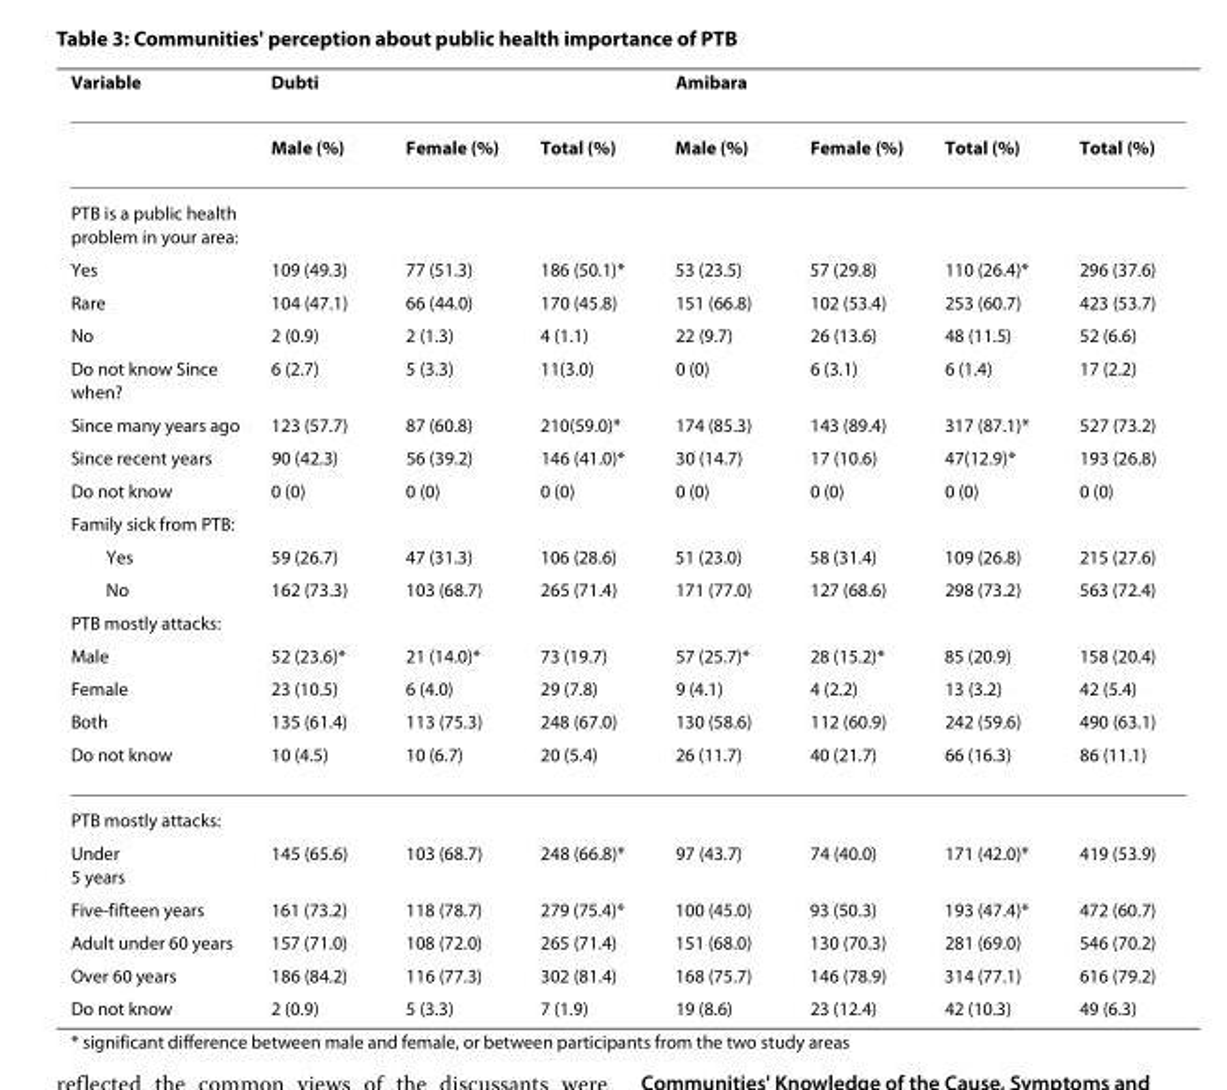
<table><thead><tr><td rowspan="2">Variable</td><td colspan="3">Dubti</td><td colspan="3">Amibara</td><td rowspan="2">Total (%)</td></tr><tr><td>Male (%)</td><td>Female (%)</td><td>Total (%)</td><td>Male (%)</td><td>Female (%)</td><td>Total (%)</td></tr></thead><tbody><tr><td colspan="8">PTB is a public health problem in your area:</td></tr><tr><td>Yes</td><td>109 (49.3)</td><td>77 (51.3)</td><td>186 (50.1)*</td><td>53 (23.5)</td><td>57 (29.8)</td><td>110 (26.4)*</td><td>296 (37.6)</td></tr><tr><td>Rare</td><td>104 (47.1)</td><td>66 (44.0)</td><td>170 (45.8)</td><td>151 (66.8)</td><td>102 (53.4)</td><td>253 (60.7)</td><td>423 (53.7)</td></tr><tr><td>No</td><td>2 (0.9)</td><td>2 (1.3)</td><td>4 (1.1)</td><td>22 (9.7)</td><td>26 (13.6)</td><td>48 (11.5)</td><td>52 (6.6)</td></tr><tr><td>Do not know Since when?</td><td>6 (2.7)</td><td>5 (3.3)</td><td>11(3.0)</td><td>0 (0)</td><td>6 (3.1)</td><td>6 (1.4)</td><td>17 (2.2)</td></tr><tr><td>Since many years ago</td><td>123 (57.7)</td><td>87 (60.8)</td><td>210(59.0)*</td><td>174 (85.3)</td><td>143 (89.4)</td><td>317 (87.1)*</td><td>527 (73.2)</td></tr><tr><td>Since recent years</td><td>90 (42.3)</td><td>56 (39.2)</td><td>146 (41.0)*</td><td>30 (14.7)</td><td>17 (10.6)</td><td>47(12.9)*</td><td>193 (26.8)</td></tr><tr><td>Do not know</td><td>0 (0)</td><td>0 (0)</td><td>0 (0)</td><td>0 (0)</td><td>0 (0)</td><td>0 (0)</td><td>0 (0)</td></tr><tr><td colspan="8">Family sick from PTB:</td></tr><tr><td>Yes</td><td>59 (26.7)</td><td>47 (31.3)</td><td>106 (28.6)</td><td>51 (23.0)</td><td>58 (31.4)</td><td>109 (26.8)</td><td>215 (27.6)</td></tr><tr><td>No</td><td>162 (73.3)</td><td>103 (68.7)</td><td>265 (71.4)</td><td>171 (77.0)</td><td>127 (68.6)</td><td>298 (73.2)</td><td>563 (72.4)</td></tr><tr><td colspan="8">PTB mostly attacks:</td></tr><tr><td>Male</td><td>52 (23.6)*</td><td>21 (14.0)*</td><td>73 (19.7)</td><td>57 (25.7)*</td><td>28 (15.2)*</td><td>85 (20.9)</td><td>158 (20.4)</td></tr><tr><td>Female</td><td>23 (10.5)</td><td>6 (4.0)</td><td>29 (7.8)</td><td>9 (4.1)</td><td>4 (2.2)</td><td>13 (3.2)</td><td>42 (5.4)</td></tr><tr><td>Both</td><td>135 (61.4)</td><td>113 (75.3)</td><td>248 (67.0)</td><td>130 (58.6)</td><td>112 (60.9)</td><td>242 (59.6)</td><td>490 (63.1)</td></tr><tr><td>Do not know</td><td>10 (4.5)</td><td>10 (6.7)</td><td>20 (5.4)</td><td>26 (11.7)</td><td>40 (21.7)</td><td>66 (16.3)</td><td>86 (11.1)</td></tr><tr><td colspan="8">PTB mostly attacks:</td></tr><tr><td>Under 5 years</td><td>145 (65.6)</td><td>103 (68.7)</td><td>248 (66.8)*</td><td>97 (43.7)</td><td>74 (40.0)</td><td>171 (42.0)*</td><td>419 (53.9)</td></tr><tr><td>Five-fifteen years</td><td>161 (73.2)</td><td>118 (78.7)</td><td>279 (75.4)*</td><td>100 (45.0)</td><td>93 (50.3)</td><td>193 (47.4)*</td><td>472 (60.7)</td></tr><tr><td>Adult under 60 years</td><td>157 (71.0)</td><td>108 (72.0)</td><td>265 (71.4)</td><td>151 (68.0)</td><td>130 (70.3)</td><td>281 (69.0)</td><td>546 (70.2)</td></tr><tr><td>Over 60 years</td><td>186 (84.2)</td><td>116 (77.3)</td><td>302 (81.4)</td><td>168 (75.7)</td><td>146 (78.9)</td><td>314 (77.1)</td><td>616 (79.2)</td></tr><tr><td>Do not know</td><td>2 (0.9)</td><td>5 (3.3)</td><td>7 (1.9)</td><td>19 (8.6)</td><td>23 (12.4)</td><td>42 (10.3)</td><td>49 (6.3)</td></tr></tbody></table>